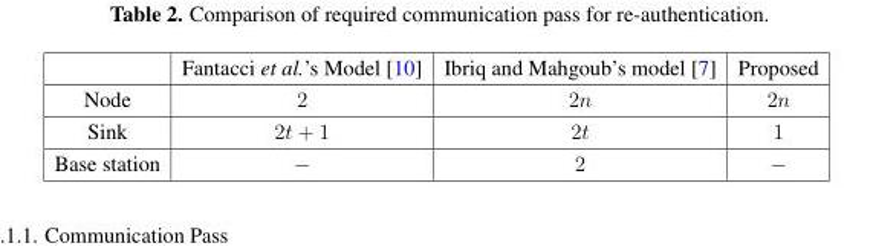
<table><thead><tr><td></td><td>Fantacci et al.’s Model [10]</td><td>Ibriq and Mahgoub’s model [7]</td><td>Proposed</td></tr></thead><tbody><tr><td>Node</td><td>2</td><td>2n</td><td>2n</td></tr><tr><td>Sink</td><td>2t + 1</td><td>2t</td><td>1</td></tr><tr><td>Base station</td><td>−</td><td>2</td><td>−</td></tr></tbody></table>